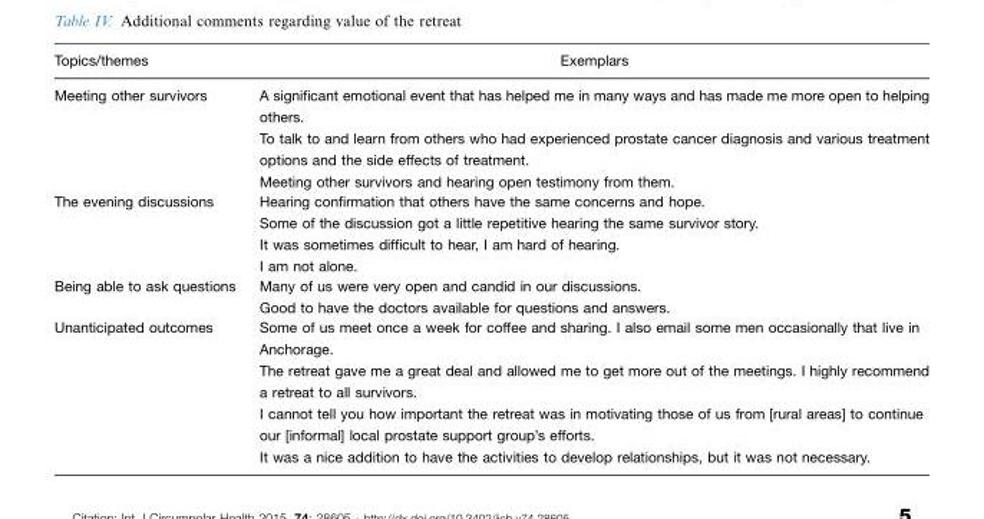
<table><thead><tr><td>Topics/themes</td><td>Exemplars</td></tr></thead><tbody><tr><td rowspan="3">Meeting other survivors</td><td>A significant emotional event that has helped me in many ways and has made me more open to helping others.</td></tr><tr><td>To talk to and learn from others who had experienced prostate cancer diagnosis and various treatment options and the side effects of treatment.</td></tr><tr><td>Meeting other survivors and hearing open testimony from them.</td></tr><tr><td rowspan="4">The evening discussions</td><td>Hearing confirmation that others have the same concerns and hope.</td></tr><tr><td>Some of the discussion got a little repetitive hearing the same survivor story.</td></tr><tr><td>It was sometimes difficult to hear, I am hard of hearing.</td></tr><tr><td>I am not alone.</td></tr><tr><td rowspan="2">Being able to ask questions</td><td>Many of us were very open and candid in our discussions.</td></tr><tr><td>Good to have the doctors available for questions and answers.</td></tr><tr><td rowspan="4">Unanticipated outcomes</td><td>Some of us meet once a week for coffee and sharing. I also email some men occasionally that live in Anchorage.</td></tr><tr><td>The retreat gave me a great deal and allowed me to get more out of the meetings. I highly recommend a retreat to all survivors.</td></tr><tr><td>I cannot tell you how important the retreat was in motivating those of us from [rural areas] to continue our [informal] local prostate support group’s efforts.</td></tr><tr><td>It was a nice addition to have the activities to develop relationships, but it was not necessary.</td></tr></tbody></table>